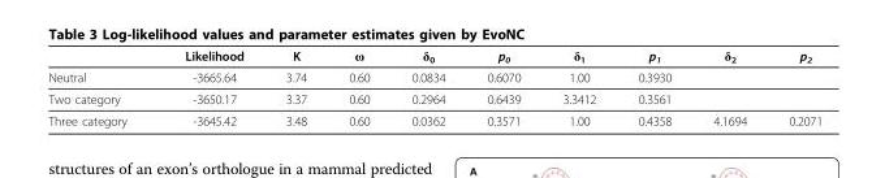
<table><thead><tr><td></td><td>Likelihood</td><td>Κ</td><td>ω</td><td>δ<sub>0</sub></td><td>p<sub>0</sub></td><td>δ<sub>1</sub></td><td>p<sub>1</sub></td><td>δ<sub>2</sub></td><td>p<sub>2</sub></td></tr></thead><tbody><tr><td>Neutral</td><td>-3665.64</td><td>3.74</td><td>0.60</td><td>0.0834</td><td>0.6070</td><td>1.00</td><td>0.3930</td><td></td><td></td></tr><tr><td>Two category</td><td>-3650.17</td><td>3.37</td><td>0.60</td><td>0.2964</td><td>0.6439</td><td>3.3412</td><td>0.3561</td><td></td><td></td></tr><tr><td>Three category</td><td>-3645.42</td><td>3.48</td><td>0.60</td><td>0.0362</td><td>0.3571</td><td>1.00</td><td>0.4358</td><td>4.1694</td><td>0.2071</td></tr></tbody></table>